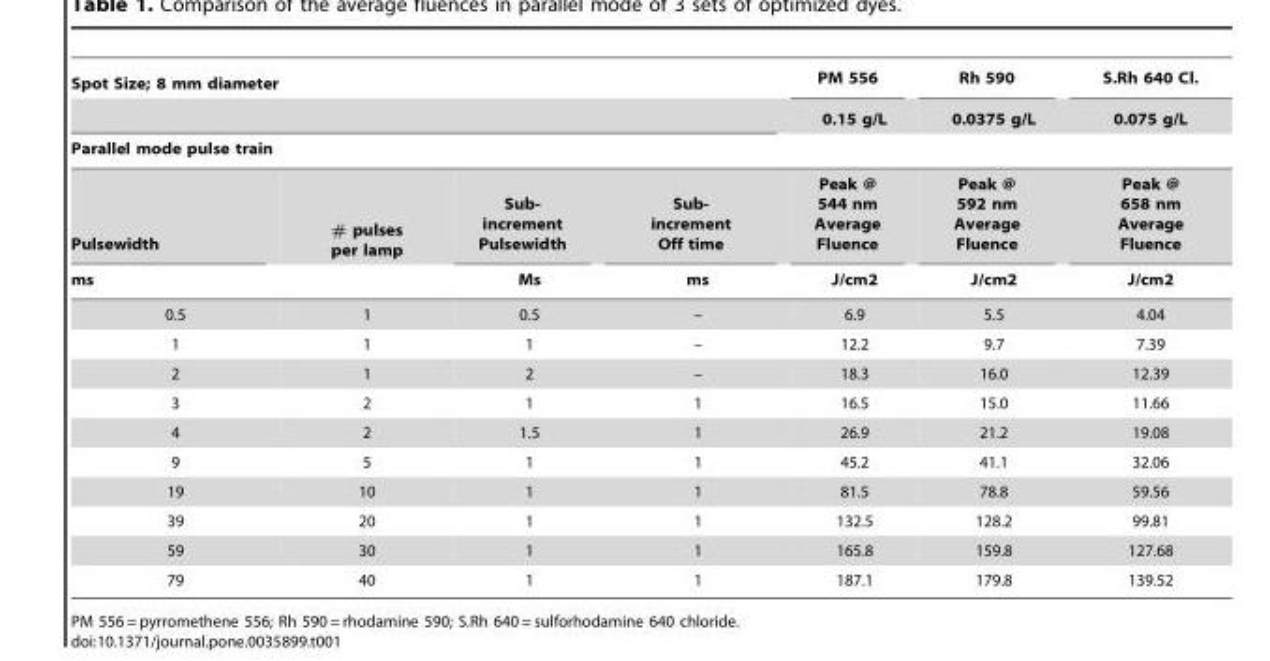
<table><thead><tr><td colspan="4">Spot Size; 8 mm diameter</td><td rowspan="2">PM 556 0.15 g/L</td><td rowspan="2">Rh 590 0.0375 g/L</td><td rowspan="2">S.Rh 640 Cl. 0.075 g/L</td></tr><tr><td></td><td></td><td></td><td></td></tr><tr><td colspan="7">Parallel mode pulse train</td></tr><tr><td rowspan="2">Pulsewidth ms</td><td rowspan="2"># pulses per lamp</td><td rowspan="2">Sub- increment Pulsewidth Ms</td><td rowspan="2">Sub- increment Off time ms</td><td rowspan="2">Peak @ 544 nm Average Fluence J/cm2</td><td rowspan="2">Peak @ 592 nm Average Fluence J/cm2</td><td rowspan="2">Peak @ 658 nm Average Fluence J/cm2</td></tr><tr></tr></thead><tbody><tr><td>0.5</td><td>1</td><td>0.5</td><td>–</td><td>6.9</td><td>5.5</td><td>4.04</td></tr><tr><td>1</td><td>1</td><td>1</td><td>–</td><td>12.2</td><td>9.7</td><td>7.39</td></tr><tr><td>2</td><td>1</td><td>2</td><td>–</td><td>18.3</td><td>16.0</td><td>12.39</td></tr><tr><td>3</td><td>2</td><td>1</td><td>1</td><td>16.5</td><td>15.0</td><td>11.66</td></tr><tr><td>4</td><td>2</td><td>1.5</td><td>1</td><td>26.9</td><td>21.2</td><td>19.08</td></tr><tr><td>9</td><td>5</td><td>1</td><td>1</td><td>45.2</td><td>41.1</td><td>32.06</td></tr><tr><td>19</td><td>10</td><td>1</td><td>1</td><td>81.5</td><td>78.8</td><td>59.56</td></tr><tr><td>39</td><td>20</td><td>1</td><td>1</td><td>132.5</td><td>128.2</td><td>99.81</td></tr><tr><td>59</td><td>30</td><td>1</td><td>1</td><td>165.8</td><td>159.8</td><td>127.68</td></tr><tr><td>79</td><td>40</td><td>1</td><td>1</td><td>187.1</td><td>179.8</td><td>139.52</td></tr></tbody></table>